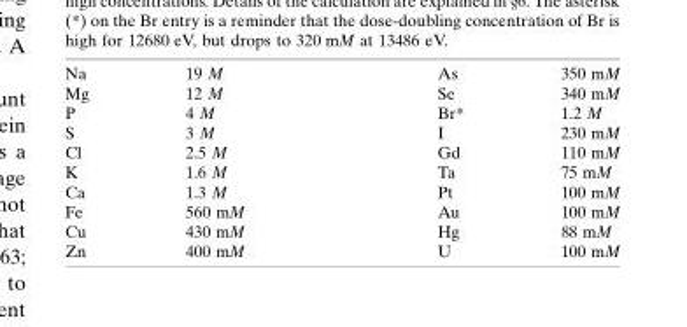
<table><tbody><tr><td>Na</td><td>19 M</td><td>As</td><td>350 mM</td></tr><tr><td>Mg</td><td>12 M</td><td>Se</td><td>340 mM</td></tr><tr><td>P</td><td>4 M</td><td>Br*</td><td>1.2 M</td></tr><tr><td>S</td><td>3 M</td><td>I</td><td>230 mM</td></tr><tr><td>Cl</td><td>2.5 M</td><td>Gd</td><td>110 mM</td></tr><tr><td>K</td><td>1.6 M</td><td>Ta</td><td>75 mM</td></tr><tr><td>Ca</td><td>1.3 M</td><td>Pt</td><td>100 mM</td></tr><tr><td>Fe</td><td>560 mM</td><td>Au</td><td>100 mM</td></tr><tr><td>Cu</td><td>430 mM</td><td>Hg</td><td>88 mM</td></tr><tr><td>Zn</td><td>400 mM</td><td>U</td><td>100 mM</td></tr></tbody></table>